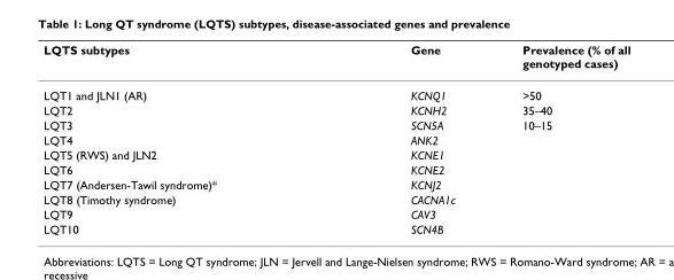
<table><thead><tr><td>LQTS subtypes</td><td>Gene</td><td>Prevalence (% of all genotyped cases)</td></tr></thead><tbody><tr><td>LQT1 and JLN1 (AR)</td><td>KCNQ1</td><td>&gt;50</td></tr><tr><td>LQT2</td><td>KCNH2</td><td>35–40</td></tr><tr><td>LQT3</td><td>SCN5A</td><td>10–15</td></tr><tr><td>LQT4</td><td>ANK2</td><td></td></tr><tr><td>LQT5 (RWS) and JLN2</td><td>KCNE1</td><td></td></tr><tr><td>LQT6</td><td>KCNE2</td><td></td></tr><tr><td>LQT7 (Andersen-Tawil syndrome)*</td><td>KCNJ2</td><td></td></tr><tr><td>LQT8 (Timothy syndrome)</td><td>CACNA1c</td><td></td></tr><tr><td>LQT9</td><td>CAV3</td><td></td></tr><tr><td>LQT10</td><td>SCN4B</td><td></td></tr></tbody></table>